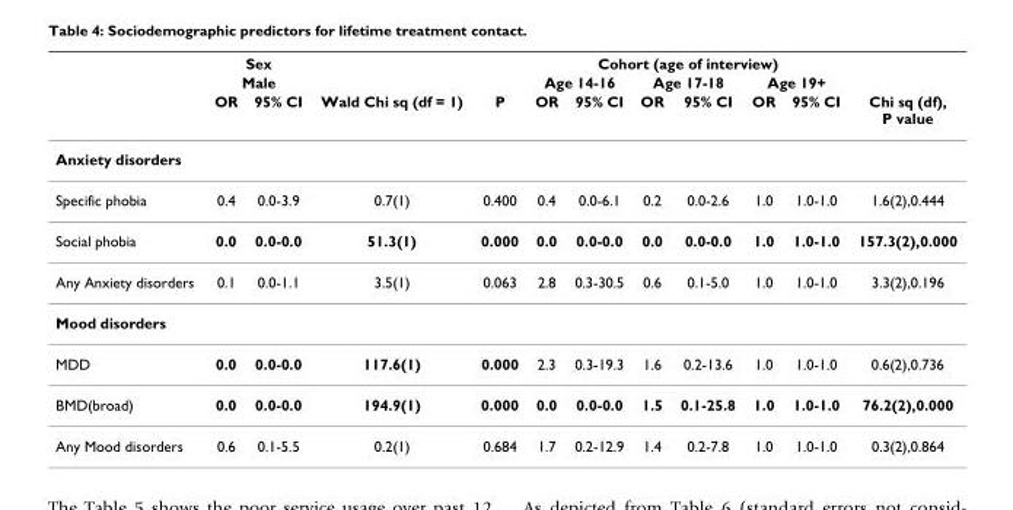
<table><thead><tr><td rowspan="3"></td><td rowspan="2" colspan="2">Sex Male</td><td rowspan="3">Wald Chi sq (df = 1)</td><td rowspan="3">P</td><td colspan="6">Cohort (age of interview)</td><td rowspan="3">Chi sq (df), P value</td></tr><tr><td colspan="2">Age 14-16</td><td colspan="2">Age 17-18</td><td colspan="2">Age 19+</td></tr><tr><td>OR</td><td>95% CI</td><td>OR</td><td>95% CI</td><td>OR</td><td>95% CI</td><td>OR</td><td>95% CI</td></tr></thead><tbody><tr><td colspan="12">Anxiety disorders</td></tr><tr><td>Specific phobia</td><td>0.4</td><td>0.0-3.9</td><td>0.7(1)</td><td>0.400</td><td>0.4</td><td>0.0-6.1</td><td>0.2</td><td>0.0-2.6</td><td>1.0</td><td>1.0-1.0</td><td>1.6(2),0.444</td></tr><tr><td>Social phobia</td><td>0.0</td><td>0.0-0.0</td><td>51.3(1)</td><td>0.000</td><td>0.0</td><td>0.0-0.0</td><td>0.0</td><td>0.0-0.0</td><td>1.0</td><td>1.0-1.0</td><td>157.3(2),0.000</td></tr><tr><td>Any Anxiety disorders</td><td>0.1</td><td>0.0-1.1</td><td>3.5(1)</td><td>0.063</td><td>2.8</td><td>0.3-30.5</td><td>0.6</td><td>0.1-5.0</td><td>1.0</td><td>1.0-1.0</td><td>3.3(2),0.196</td></tr><tr><td colspan="12">Mood disorders</td></tr><tr><td>MDD</td><td>0.0</td><td>0.0-0.0</td><td>117.6(1)</td><td>0.000</td><td>2.3</td><td>0.3-19.3</td><td>1.6</td><td>0.2-13.6</td><td>1.0</td><td>1.0-1.0</td><td>0.6(2),0.736</td></tr><tr><td>BMD(broad)</td><td>0.0</td><td>0.0-0.0</td><td>194.9(1)</td><td>0.000</td><td>0.0</td><td>0.0-0.0</td><td>1.5</td><td>0.1-25.8</td><td>1.0</td><td>1.0-1.0</td><td>76.2(2),0.000</td></tr><tr><td>Any Mood disorders</td><td>0.6</td><td>0.1-5.5</td><td>0.2(1)</td><td>0.684</td><td>1.7</td><td>0.2-12.9</td><td>1.4</td><td>0.2-7.8</td><td>1.0</td><td>1.0-1.0</td><td>0.3(2),0.864</td></tr></tbody></table>